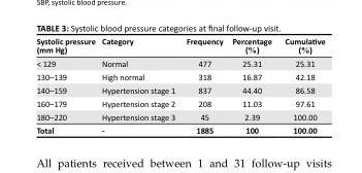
<table><thead><tr><td>Systolic pressure (mm Hg)</td><td>Category</td><td>Frequency</td><td>Percentage (%)</td><td>Cumulative (%)</td></tr></thead><tbody><tr><td>&lt; 129</td><td>Normal</td><td>477</td><td>25.31</td><td>25.31</td></tr><tr><td>130–139</td><td>High normal</td><td>318</td><td>16.87</td><td>42.18</td></tr><tr><td>140–159</td><td>Hypertension stage 1</td><td>837</td><td>44.40</td><td>86.58</td></tr><tr><td>160–179</td><td>Hypertension stage 2</td><td>208</td><td>11.03</td><td>97.61</td></tr><tr><td>180–220</td><td>Hypertension stage 3</td><td>45</td><td>2.39</td><td>100.00</td></tr><tr><td>Total</td><td>-</td><td>1885</td><td>100</td><td>100.00</td></tr></tbody></table>